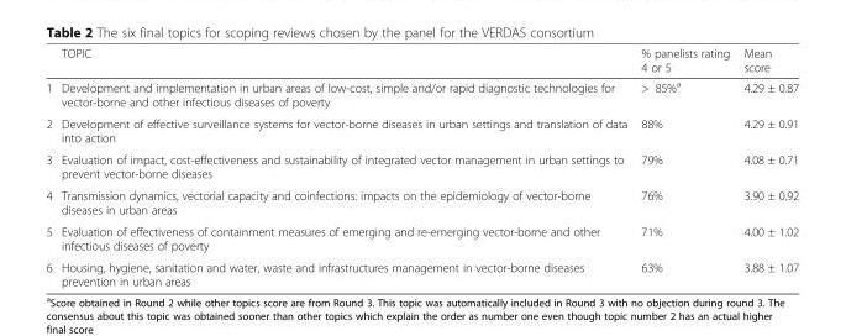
<table><thead><tr><td></td><td>TOPIC</td><td>% panelists rating 4 or 5</td><td>Mean score</td></tr></thead><tbody><tr><td>1</td><td>Development and implementation in urban areas of low-cost, simple and/or rapid diagnostic technologies for vector-borne and other infectious diseases of poverty</td><td>&gt; 85%<sup>a</sup></td><td>4.29 ± 0.87</td></tr><tr><td>2</td><td>Development of effective surveillance systems for vector-borne diseases in urban settings and translation of data into action</td><td>88%</td><td>4.29 ± 0.91</td></tr><tr><td>3</td><td>Evaluation of impact, cost-effectiveness and sustainability of integrated vector management in urban settings to prevent vector-borne diseases</td><td>79%</td><td>4.08 ± 0.71</td></tr><tr><td>4</td><td>Transmission dynamics, vectorial capacity and coinfections: impacts on the epidemiology of vector-borne diseases in urban areas</td><td>76%</td><td>3.90 ± 0.92</td></tr><tr><td>5</td><td>Evaluation of effectiveness of containment measures of emerging and re-emerging vector-borne and other infectious diseases of poverty</td><td>71%</td><td>4.00 ± 1.02</td></tr><tr><td>6</td><td>Housing, hygiene, sanitation and water, waste and infrastructures management in vector-borne diseases prevention in urban areas</td><td>63%</td><td>3.88 ± 1.07</td></tr></tbody></table>